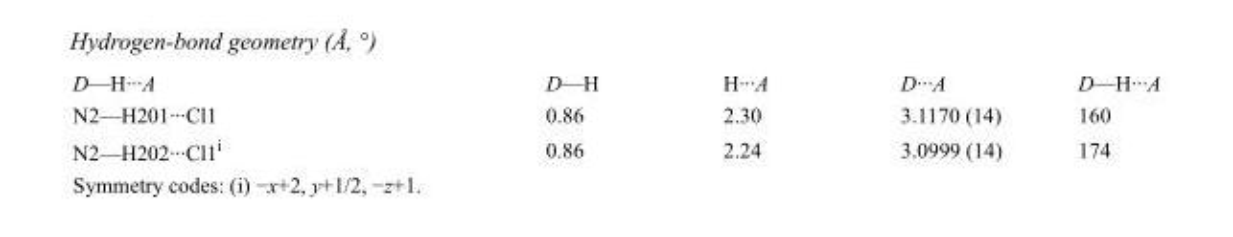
<table><tbody><tr><td>D—H···A</td><td>D—H</td><td>H···A</td><td>D···A</td><td>D—H···A</td></tr><tr><td>N2—H201···Cl1</td><td>0.86</td><td>2.30</td><td>3.1170 (14)</td><td>160</td></tr><tr><td>N2—H202···Cl1<sup>i</sup></td><td>0.86</td><td>2.24</td><td>3.0999 (14)</td><td>174</td></tr></tbody></table>